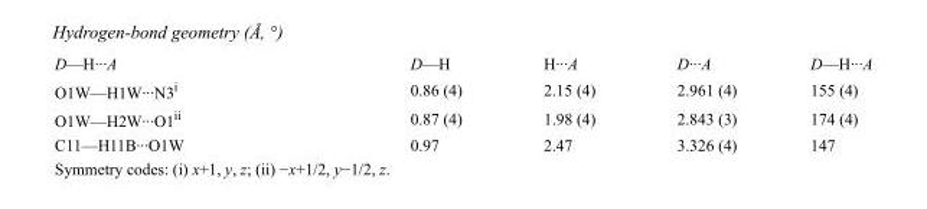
<table><tbody><tr><td>D—H···A</td><td>D—H</td><td>H···A</td><td>D···A</td><td>D—H···A</td></tr><tr><td>O1W—H1W···N3<sup>i</sup></td><td>0.86 (4)</td><td>2.15 (4)</td><td>2.961 (4)</td><td>155 (4)</td></tr><tr><td>O1W—H2W···O1<sup>ii</sup></td><td>0.87 (4)</td><td>1.98 (4)</td><td>2.843 (3)</td><td>174 (4)</td></tr><tr><td>C11—H11B···O1W</td><td>0.97</td><td>2.47</td><td>3.326 (4)</td><td>147</td></tr></tbody></table>